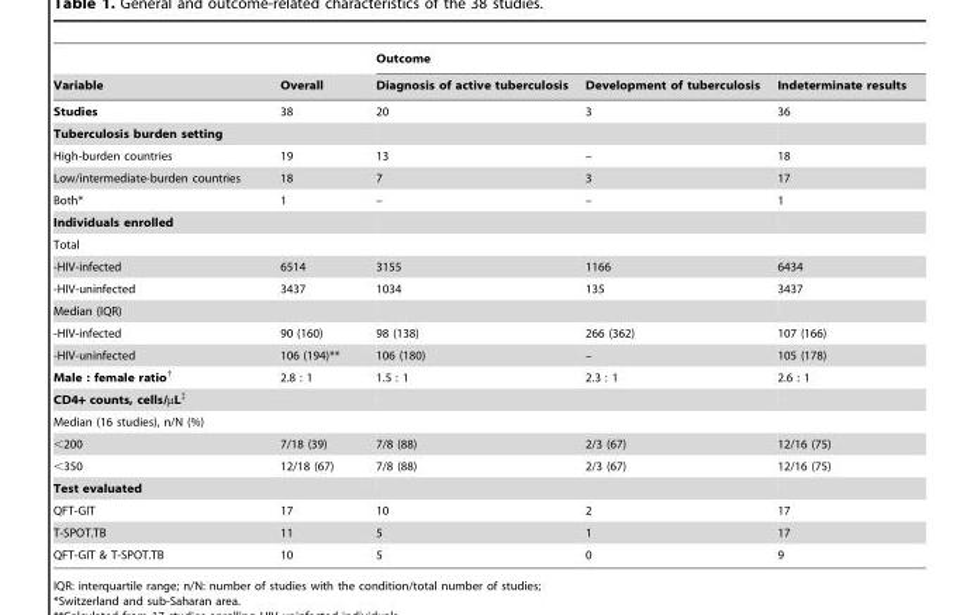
<table><thead><tr><td rowspan="2">Variable</td><td rowspan="2">Overall</td><td colspan="3">Outcome</td></tr><tr><td>Diagnosis of active tuberculosis</td><td>Development of tuberculosis</td><td>Indeterminate results</td></tr></thead><tbody><tr><td>Studies</td><td>38</td><td>20</td><td>3</td><td>36</td></tr><tr><td colspan="5">Tuberculosis burden setting</td></tr><tr><td>High-burden countries</td><td>19</td><td>13</td><td>–</td><td>18</td></tr><tr><td>Low/intermediate-burden countries</td><td>18</td><td>7</td><td>3</td><td>17</td></tr><tr><td>Both*</td><td>1</td><td>–</td><td>–</td><td>1</td></tr><tr><td colspan="5">Individuals enrolled</td></tr><tr><td colspan="5">Total</td></tr><tr><td>-HIV-infected</td><td>6514</td><td>3155</td><td>1166</td><td>6434</td></tr><tr><td>-HIV-uninfected</td><td>3437</td><td>1034</td><td>135</td><td>3437</td></tr><tr><td colspan="5">Median (IQR)</td></tr><tr><td>-HIV-infected</td><td>90 (160)</td><td>98 (138)</td><td>266 (362)</td><td>107 (166)</td></tr><tr><td>-HIV-uninfected</td><td>106 (194)**</td><td>106 (180)</td><td>–</td><td>105 (178)</td></tr><tr><td>Male : female ratio†</td><td>2.8 : 1</td><td>1.5 : 1</td><td>2.3 : 1</td><td>2.6 : 1</td></tr><tr><td colspan="5">CD4+ counts, cells/µL‡</td></tr><tr><td colspan="5">Median (16 studies), n/N (%)</td></tr><tr><td>&lt;200</td><td>7/18 (39)</td><td>7/8 (88)</td><td>2/3 (67)</td><td>12/16 (75)</td></tr><tr><td>&lt;350</td><td>12/18 (67)</td><td>7/8 (88)</td><td>2/3 (67)</td><td>12/16 (75)</td></tr><tr><td colspan="5">Test evaluated</td></tr><tr><td>QFT-GIT</td><td>17</td><td>10</td><td>2</td><td>17</td></tr><tr><td>T-SPOT.TB</td><td>11</td><td>5</td><td>1</td><td>17</td></tr><tr><td>QFT-GIT &amp; T-SPOT.TB</td><td>10</td><td>5</td><td>0</td><td>9</td></tr></tbody></table>